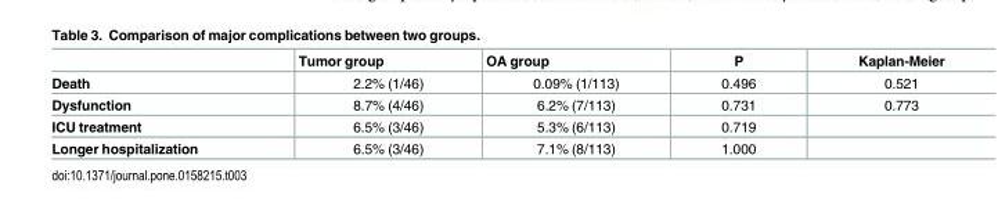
<table><thead><tr><td></td><td>Tumor group</td><td>OA group</td><td>P</td><td>Kaplan-Meier</td></tr></thead><tbody><tr><td>Death</td><td>2.2% (1/46)</td><td>0.09% (1/113)</td><td>0.496</td><td>0.521</td></tr><tr><td>Dysfunction</td><td>8.7% (4/46)</td><td>6.2% (7/113)</td><td>0.731</td><td>0.773</td></tr><tr><td>ICU treatment</td><td>6.5% (3/46)</td><td>5.3% (6/113)</td><td>0.719</td><td></td></tr><tr><td>Longer hospitalization</td><td>6.5% (3/46)</td><td>7.1% (8/113)</td><td>1.000</td><td></td></tr></tbody></table>